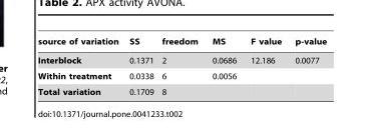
<table><thead><tr><td>source of variation</td><td>SS</td><td>freedom</td><td>MS</td><td>F value</td><td>p-value</td></tr></thead><tbody><tr><td>Interblock</td><td>0.1371</td><td>2</td><td>0.0686</td><td>12.186</td><td>0.0077</td></tr><tr><td>Within treatment</td><td>0.0338</td><td>6</td><td>0.0056</td><td></td><td></td></tr><tr><td>Total variation</td><td>0.1709</td><td>8</td><td></td><td></td><td></td></tr></tbody></table>